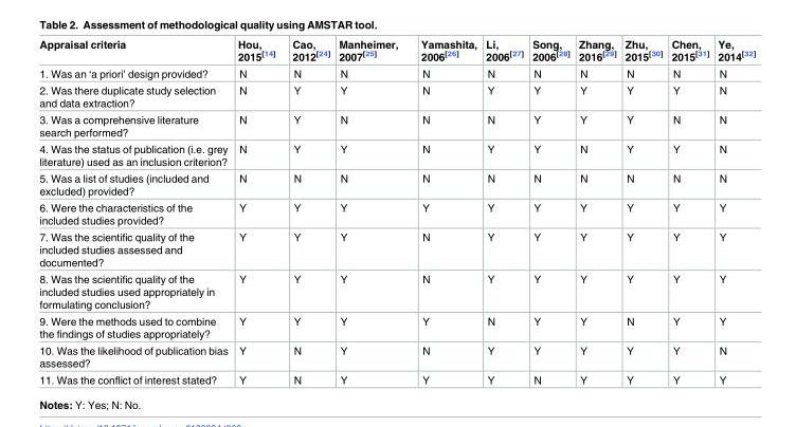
<table><thead><tr><td>Appraisal criteria</td><td>Hou, 2015<sup>[14]</sup></td><td>Cao, 2012<sup>[24]</sup></td><td>Manheimer, 2007<sup>[25]</sup></td><td>Yamashita, 2006<sup>[26]</sup></td><td>Li, 2006<sup>[27]</sup></td><td>Song, 2006<sup>[28]</sup></td><td>Zhang, 2016<sup>[29]</sup></td><td>Zhu, 2015<sup>[30]</sup></td><td>Chen, 2015<sup>[31]</sup></td><td>Ye, 2014<sup>[32]</sup></td></tr></thead><tbody><tr><td>1. Was an ‘a priori’ design provided?</td><td>N</td><td>N</td><td>N</td><td>N</td><td>N</td><td>N</td><td>N</td><td>N</td><td>N</td><td>N</td></tr><tr><td>2. Was there duplicate study selection and data extraction?</td><td>N</td><td>Y</td><td>Y</td><td>N</td><td>Y</td><td>Y</td><td>Y</td><td>Y</td><td>Y</td><td>N</td></tr><tr><td>3. Was a comprehensive literature search performed?</td><td>N</td><td>Y</td><td>N</td><td>N</td><td>N</td><td>Y</td><td>Y</td><td>Y</td><td>N</td><td>N</td></tr><tr><td>4. Was the status of publication (i.e. grey literature) used as an inclusion criterion?</td><td>N</td><td>Y</td><td>Y</td><td>N</td><td>Y</td><td>Y</td><td>N</td><td>Y</td><td>Y</td><td>N</td></tr><tr><td>5. Was a list of studies (included and excluded) provided?</td><td>N</td><td>N</td><td>N</td><td>N</td><td>N</td><td>N</td><td>N</td><td>N</td><td>N</td><td>N</td></tr><tr><td>6. Were the characteristics of the included studies provided?</td><td>Y</td><td>Y</td><td>Y</td><td>Y</td><td>Y</td><td>Y</td><td>Y</td><td>Y</td><td>Y</td><td>Y</td></tr><tr><td>7. Was the scientific quality of the included studies assessed and documented?</td><td>Y</td><td>Y</td><td>Y</td><td>N</td><td>Y</td><td>Y</td><td>Y</td><td>Y</td><td>Y</td><td>Y</td></tr><tr><td>8. Was the scientific quality of the included studies used appropriately in formulating conclusion?</td><td>Y</td><td>Y</td><td>Y</td><td>N</td><td>Y</td><td>Y</td><td>Y</td><td>Y</td><td>Y</td><td>Y</td></tr><tr><td>9. Were the methods used to combine the findings of studies appropriately?</td><td>Y</td><td>Y</td><td>Y</td><td>Y</td><td>N</td><td>Y</td><td>Y</td><td>N</td><td>Y</td><td>Y</td></tr><tr><td>10. Was the likelihood of publication bias assessed?</td><td>Y</td><td>N</td><td>Y</td><td>N</td><td>Y</td><td>Y</td><td>Y</td><td>Y</td><td>Y</td><td>N</td></tr><tr><td>11. Was the conflict of interest stated?</td><td>Y</td><td>N</td><td>Y</td><td>Y</td><td>Y</td><td>N</td><td>Y</td><td>Y</td><td>Y</td><td>Y</td></tr></tbody></table>